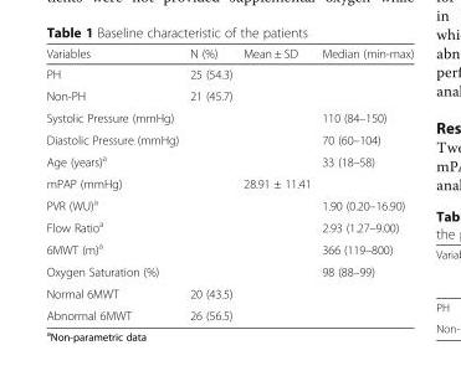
<table><thead><tr><td>Variables</td><td>N (%)</td><td>Mean ± SD</td><td>Median (min-max)</td></tr></thead><tbody><tr><td>PH</td><td>25 (54.3)</td><td></td><td></td></tr><tr><td>Non-PH</td><td>21 (45.7)</td><td></td><td></td></tr><tr><td>Systolic Pressure (mmHg)</td><td></td><td></td><td>110 (84–150)</td></tr><tr><td>Diastolic Pressure (mmHg)</td><td></td><td></td><td>70 (60–104)</td></tr><tr><td>Age (years)<sup>a</sup></td><td></td><td></td><td>33 (18–58)</td></tr><tr><td>mPAP (mmHg)</td><td></td><td>28.91 ± 11.41</td><td></td></tr><tr><td>PVR (WU)<sup>a</sup></td><td></td><td></td><td>1.90 (0.20–16.90)</td></tr><tr><td>Flow Ratio<sup>a</sup></td><td></td><td></td><td>2.93 (1.27–9.00)</td></tr><tr><td>6MWT (m)<sup>a</sup></td><td></td><td></td><td>366 (119–800)</td></tr><tr><td>Oxygen Saturation (%)</td><td></td><td></td><td>98 (88–99)</td></tr><tr><td>Normal 6MWT</td><td>20 (43.5)</td><td></td><td></td></tr><tr><td>Abnormal 6MWT</td><td>26 (56.5)</td><td></td><td></td></tr></tbody></table>